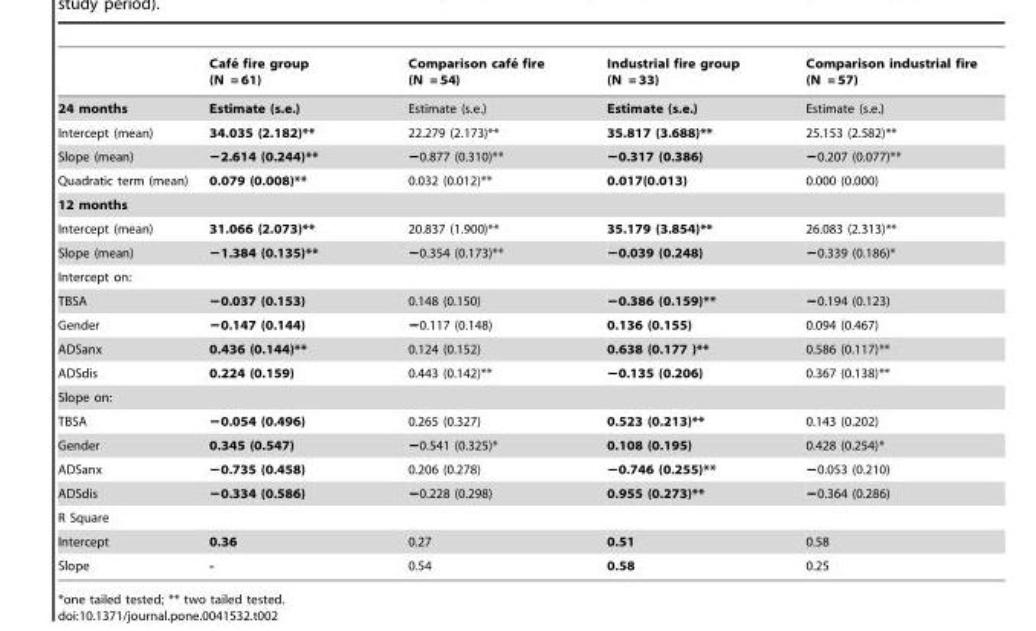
<table><thead><tr><td></td><td>Cafe´ fire group (N = 61)</td><td>Comparison cafe´ fire (N = 54)</td><td>Industrial fire group (N = 33)</td><td>Comparison industrial fire (N = 57)</td></tr></thead><tbody><tr><td>24 months</td><td>Estimate (s.e.)</td><td>Estimate (s.e.)</td><td>Estimate (s.e.)</td><td>Estimate (s.e.)</td></tr><tr><td>Intercept (mean)</td><td>34.035 (2.182)**</td><td>22.279 (2.173)**</td><td>35.817 (3.688)**</td><td>25.153 (2.582)**</td></tr><tr><td>Slope (mean)</td><td>−2.614 (0.244)**</td><td>−0.877 (0.310)**</td><td>−0.317 (0.386)</td><td>−0.207 (0.077)**</td></tr><tr><td>Quadratic term (mean)</td><td>0.079 (0.008)**</td><td>0.032 (0.012)**</td><td>0.017(0.013)</td><td>0.000 (0.000)</td></tr><tr><td colspan="5">12 months</td></tr><tr><td>Intercept (mean)</td><td>31.066 (2.073)**</td><td>20.837 (1.900)**</td><td>35.179 (3.854)**</td><td>26.083 (2.313)**</td></tr><tr><td>Slope (mean)</td><td>−1.384 (0.135)**</td><td>−0.354 (0.173)**</td><td>−0.039 (0.248)</td><td>−0.339 (0.186)*</td></tr><tr><td colspan="5">Intercept on:</td></tr><tr><td>TBSA</td><td>−0.037 (0.153)</td><td>0.148 (0.150)</td><td>−0.386 (0.159)**</td><td>−0.194 (0.123)</td></tr><tr><td>Gender</td><td>−0.147 (0.144)</td><td>−0.117 (0.148)</td><td>0.136 (0.155)</td><td>0.094 (0.467)</td></tr><tr><td>ADSanx</td><td>0.436 (0.144)**</td><td>0.124 (0.152)</td><td>0.638 (0.177 )**</td><td>0.586 (0.117)**</td></tr><tr><td>ADSdis</td><td>0.224 (0.159)</td><td>0.443 (0.142)**</td><td>−0.135 (0.206)</td><td>0.367 (0.138)**</td></tr><tr><td colspan="5">Slope on:</td></tr><tr><td>TBSA</td><td>−0.054 (0.496)</td><td>0.265 (0.327)</td><td>0.523 (0.213)**</td><td>0.143 (0.202)</td></tr><tr><td>Gender</td><td>0.345 (0.547)</td><td>−0.541 (0.325)*</td><td>0.108 (0.195)</td><td>0.428 (0.254)*</td></tr><tr><td>ADSanx</td><td>−0.735 (0.458)</td><td>0.206 (0.278)</td><td>−0.746 (0.255)**</td><td>−0.053 (0.210)</td></tr><tr><td>ADSdis</td><td>−0.334 (0.586)</td><td>−0.228 (0.298)</td><td>0.955 (0.273)**</td><td>−0.364 (0.286)</td></tr><tr><td colspan="5">R Square</td></tr><tr><td>Intercept</td><td>0.36</td><td>0.27</td><td>0.51</td><td>0.58</td></tr><tr><td>Slope</td><td>-</td><td>0.54</td><td>0.58</td><td>0.25</td></tr></tbody></table>